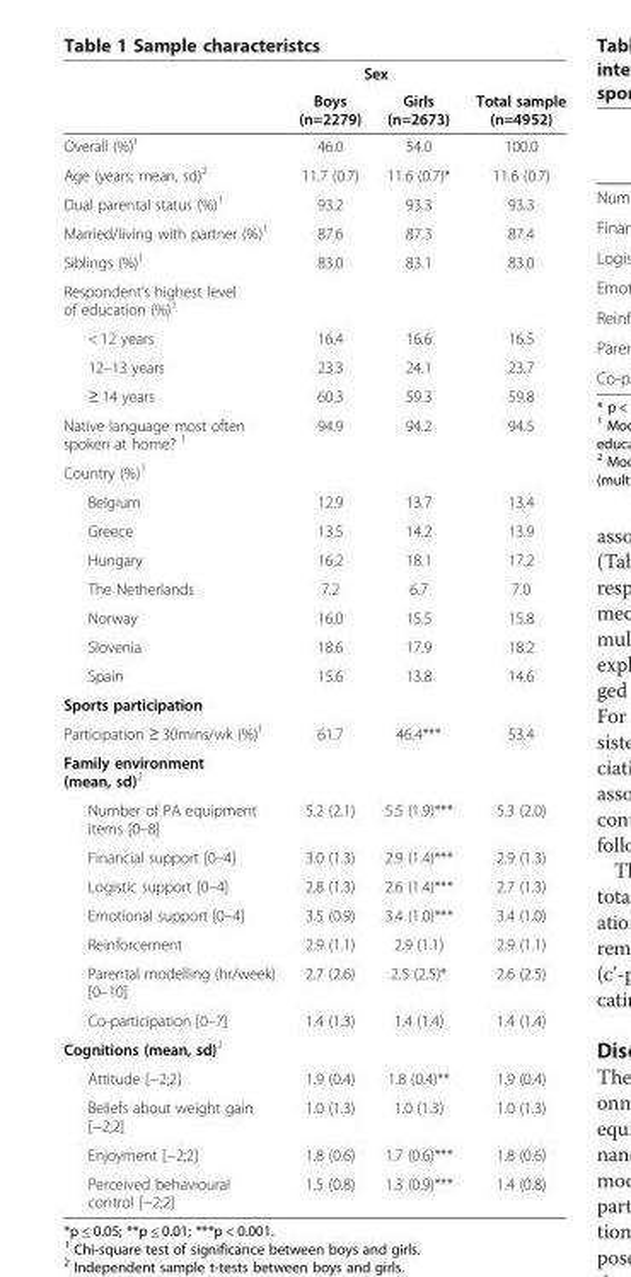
<table><thead><tr><td rowspan="2"></td><td colspan="2">Sex</td><td rowspan="2">Total sample (n=4952)</td></tr><tr><td>Boys (n=2279)</td><td>Girls (n=2673)</td></tr></thead><tbody><tr><td>Overall (%)<sup>1</sup></td><td>46.0</td><td>54.0</td><td>100.0</td></tr><tr><td>Age (years; mean, sd)<sup>2</sup></td><td>11.7 (0.7)</td><td>11.6 (0.7)*</td><td>11.6 (0.7)</td></tr><tr><td>Dual parental status (%)<sup>1</sup></td><td>93.2</td><td>93.3</td><td>93.3</td></tr><tr><td>Married/living with partner (%)<sup>1</sup></td><td>87.6</td><td>87.3</td><td>87.4</td></tr><tr><td>Siblings (%)<sup>1</sup></td><td>83.0</td><td>83.1</td><td>83.0</td></tr><tr><td colspan="4">Respondent’s highest level of education (%)<sup>1</sup></td></tr><tr><td>&lt; 12 years</td><td>16.4</td><td>16.6</td><td>16.5</td></tr><tr><td>12–13 years</td><td>23.3</td><td>24.1</td><td>23.7</td></tr><tr><td>≥ 14 years</td><td>60.3</td><td>59.3</td><td>59.8</td></tr><tr><td>Native language most often spoken at home? <sup>1</sup></td><td>94.9</td><td>94.2</td><td>94.5</td></tr><tr><td colspan="4">Country (%)<sup>1</sup></td></tr><tr><td>Belgium</td><td>12.9</td><td>13.7</td><td>13.4</td></tr><tr><td>Greece</td><td>13.5</td><td>14.2</td><td>13.9</td></tr><tr><td>Hungary</td><td>16.2</td><td>18.1</td><td>17.2</td></tr><tr><td>The Netherlands</td><td>7.2</td><td>6.7</td><td>7.0</td></tr><tr><td>Norway</td><td>16.0</td><td>15.5</td><td>15.8</td></tr><tr><td>Slovenia</td><td>18.6</td><td>17.9</td><td>18.2</td></tr><tr><td>Spain</td><td>15.6</td><td>13.8</td><td>14.6</td></tr><tr><td colspan="4">Sports participation</td></tr><tr><td>Participation ≥ 30mins/wk (%)<sup>1</sup></td><td>61.7</td><td>46.4***</td><td>53.4</td></tr><tr><td colspan="4">Family environment (mean, sd)<sup>2</sup></td></tr><tr><td>Number of PA equipment items [0–8]</td><td>5.2 (2.1)</td><td>5.5 (1.9)***</td><td>5.3 (2.0)</td></tr><tr><td>Financial support [0–4]</td><td>3.0 (1.3)</td><td>2.9 (1.4)***</td><td>2.9 (1.3)</td></tr><tr><td>Logistic support [0–4]</td><td>2.8 (1.3)</td><td>2.6 (1.4)***</td><td>2.7 (1.3)</td></tr><tr><td>Emotional support [0–4]</td><td>3.5 (0.9)</td><td>3.4 (1.0)***</td><td>3.4 (1.0)</td></tr><tr><td>Reinforcement</td><td>2.9 (1.1)</td><td>2.9 (1.1)</td><td>2.9 (1.1)</td></tr><tr><td>Parental modelling (hr/week) [0–10]</td><td>2.7 (2.6)</td><td>2.5 (2.5)*</td><td>2.6 (2.5)</td></tr><tr><td>Co-participation [0–7]</td><td>1.4 (1.3)</td><td>1.4 (1.4)</td><td>1.4 (1.4)</td></tr><tr><td colspan="4">Cognitions (mean, sd)<sup>2</sup></td></tr><tr><td>Attitude [−2;2]</td><td>1.9 (0.4)</td><td>1.8 (0.4)**</td><td>1.9 (0.4)</td></tr><tr><td>Beliefs about weight gain [−2;2]</td><td>1.0 (1.3)</td><td>1.0 (1.3)</td><td>1.0 (1.3)</td></tr><tr><td>Enjoyment [−2;2]</td><td>1.8 (0.6)</td><td>1.7 (0.6)***</td><td>1.8 (0.6)</td></tr><tr><td>Perceived behavioural control [−2;2]</td><td>1.5 (0.8)</td><td>1.3 (0.9)***</td><td>1.4 (0.8)</td></tr></tbody></table>